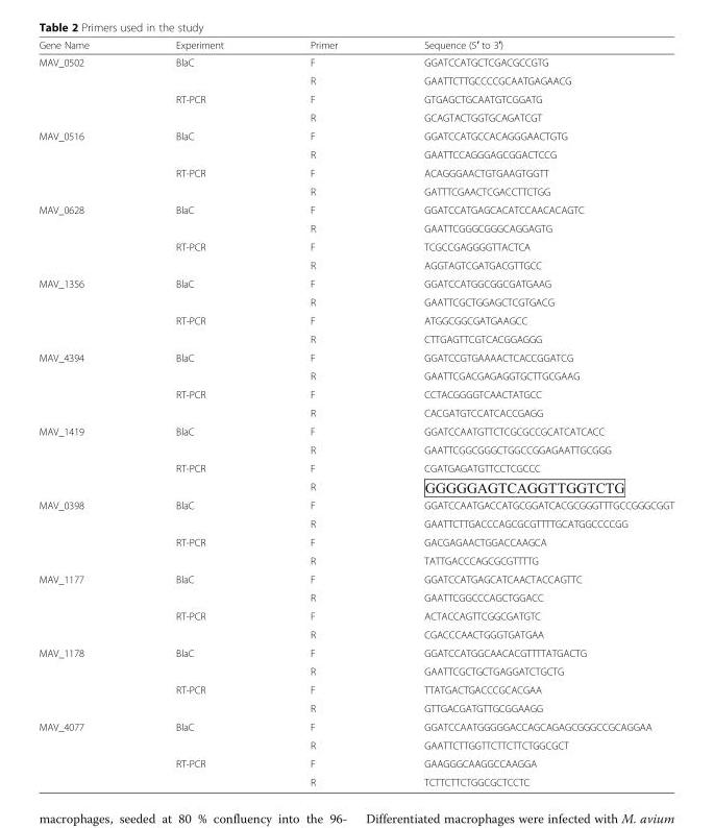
<table><thead><tr><td>Gene Name</td><td>Experiment</td><td>Primer</td><td>Sequence (5′ to 3′)</td></tr></thead><tbody><tr><td rowspan="4">MAV_0502</td><td rowspan="2">BlaC</td><td>F</td><td>GGATCCATGCTCGACGCCGTG</td></tr><tr><td>R</td><td>GAATTCTTGCCCCGCAATGAGAACG</td></tr><tr><td rowspan="2">RT-PCR</td><td>F</td><td>GTGAGCTGCAATGTCGGATG</td></tr><tr><td>R</td><td>GCAGTACTGGTGCAGATCGT</td></tr><tr><td rowspan="4">MAV_0516</td><td rowspan="2">BlaC</td><td>F</td><td>GGATCCATGCCACAGGGAACTGTG</td></tr><tr><td>R</td><td>GAATTCCAGGGAGCGGACTCCG</td></tr><tr><td rowspan="2">RT-PCR</td><td>F</td><td>ACAGGGAACTGTGAAGTGGTT</td></tr><tr><td>R</td><td>GATTTCGAACTCGACCTTCTGG</td></tr><tr><td rowspan="4">MAV_0628</td><td rowspan="2">BlaC</td><td>F</td><td>GGATCCATGAGCACATCCAACACAGTC</td></tr><tr><td>R</td><td>GAATTCGGGCGGGCAGGAGTG</td></tr><tr><td rowspan="2">RT-PCR</td><td>F</td><td>TCGCCGAGGGGTTACTCA</td></tr><tr><td>R</td><td>AGGTAGTCGATGACGTTGCC</td></tr><tr><td rowspan="4">MAV_1356</td><td rowspan="2">BlaC</td><td>F</td><td>GGATCCATGGCGGCGATGAAG</td></tr><tr><td>R</td><td>GAATTCGCTGGAGCTCGTGACG</td></tr><tr><td rowspan="2">RT-PCR</td><td>F</td><td>ATGGCGGCGATGAAGCC</td></tr><tr><td>R</td><td>CTTGAGTTCGTCACGGAGGG</td></tr><tr><td rowspan="4">MAV_4394</td><td rowspan="2">BlaC</td><td>F</td><td>GGATCCGTGAAAACTCACCGGATCG</td></tr><tr><td>R</td><td>GAATTCGACGAGAGGTGCTTGCGAAG</td></tr><tr><td rowspan="2">RT-PCR</td><td>F</td><td>CCTACGGGGTCAACTATGCC</td></tr><tr><td>R</td><td>CACGATGTCCATCACCGAGG</td></tr><tr><td rowspan="4">MAV_1419</td><td rowspan="2">BlaC</td><td>F</td><td>GGATCCAATGTTCTCGCGCCGCATCATCACC</td></tr><tr><td>R</td><td>GAATTCGGCGGGCTGGCCGGAGAATTGCGGG</td></tr><tr><td rowspan="2">RT-PCR</td><td>F</td><td>CGATGAGATGTTCCTCGCCC</td></tr><tr><td>R</td><td></td></tr><tr><td rowspan="4">MAV_0398</td><td rowspan="2">BlaC</td><td>F</td><td>GGATCCAATGACCATGCGGATCACGCGGGTTTGCCGGGCGGT</td></tr><tr><td>R</td><td>GAATTCTTGACCCAGCGCGTTTTGCATGGCCCCGG</td></tr><tr><td rowspan="2">RT-PCR</td><td>F</td><td>GACGAGAACTGGACCAAGCA</td></tr><tr><td>R</td><td>TATTGACCCAGCGCGTTTTG</td></tr><tr><td rowspan="4">MAV_1177</td><td rowspan="2">BlaC</td><td>F</td><td>GGATCCATGAGCATCAACTACCAGTTC</td></tr><tr><td>R</td><td>GAATTCGGCCCAGCTGGACC</td></tr><tr><td rowspan="2">RT-PCR</td><td>F</td><td>ACTACCAGTTCGGCGATGTC</td></tr><tr><td>R</td><td>CGACCCAACTGGGTGATGAA</td></tr><tr><td rowspan="4">MAV_1178</td><td rowspan="2">BlaC</td><td>F</td><td>GGATCCATGGCAACACGTTTTATGACTG</td></tr><tr><td>R</td><td>GAATTCGCTGCTGAGGATCTGCTG</td></tr><tr><td rowspan="2">RT-PCR</td><td>F</td><td>TTATGACTGACCCGCACGAA</td></tr><tr><td>R</td><td>GTTGACGATGTTGCGGAAGG</td></tr><tr><td rowspan="4">MAV_4077</td><td rowspan="2">BlaC</td><td>F</td><td>GGATCCAATGGGGGACCAGCAGAGCGGGCCGCAGGAA</td></tr><tr><td>R</td><td>GAATTCTTGGTTCTTCTTCTGGCGCT</td></tr><tr><td rowspan="2">RT-PCR</td><td>F</td><td>GAAGGGCAAGGCCAAGGA</td></tr><tr><td>R</td><td>TCTTCTTCTGGCGCTCCTC</td></tr></tbody></table>